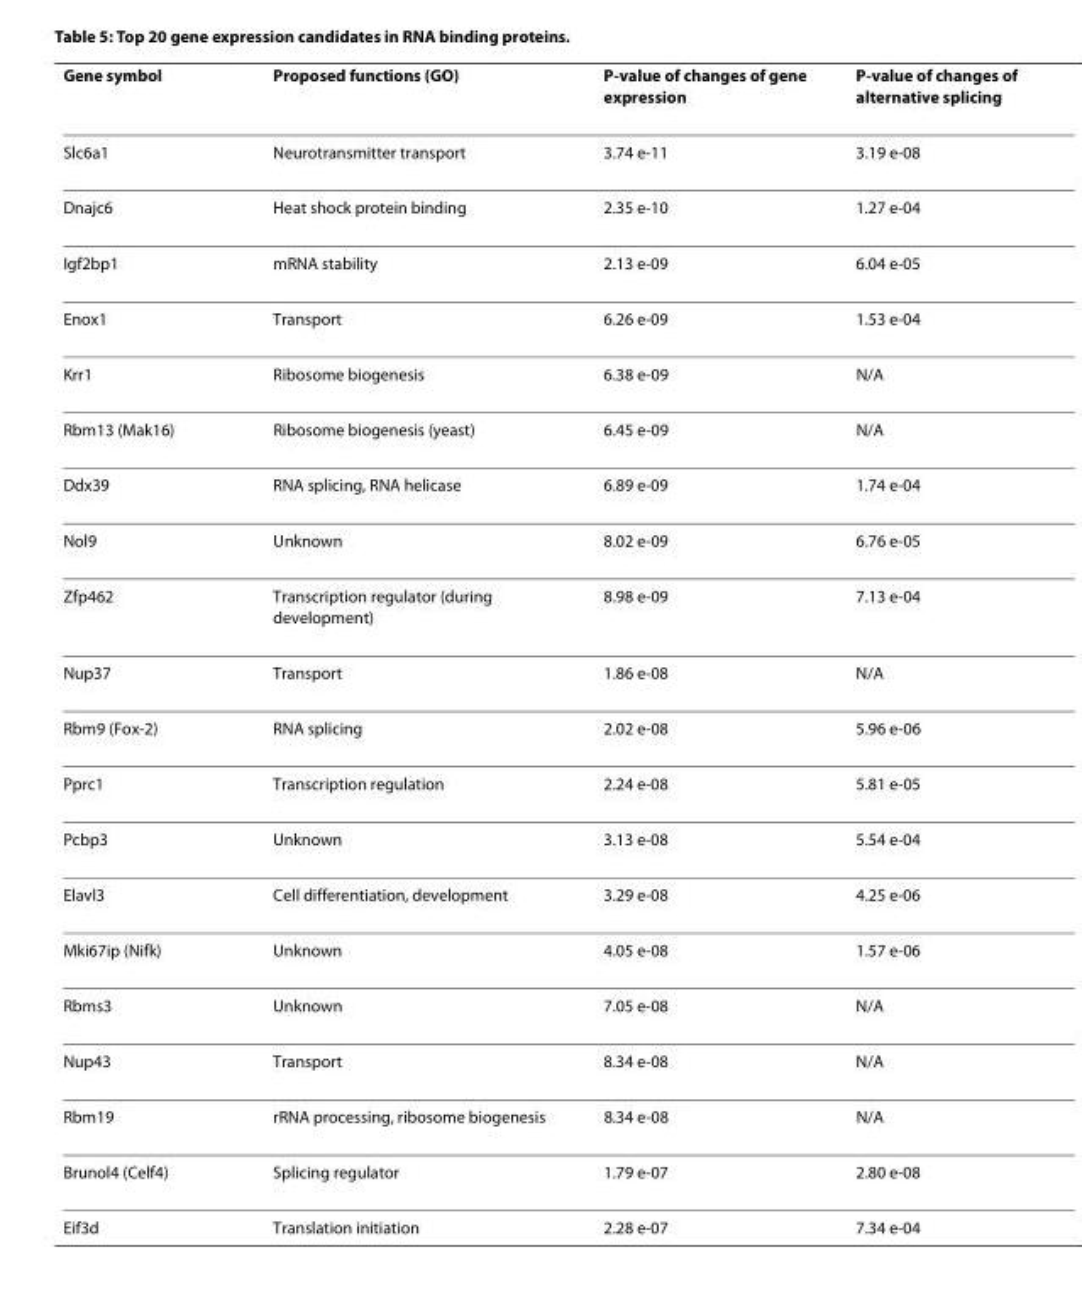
<table><thead><tr><td>Gene symbol</td><td>Proposed functions (GO)</td><td>P-value of changes of gene expression</td><td>P-value of changes of alternative splicing</td></tr></thead><tbody><tr><td>Slc6a1</td><td>Neurotransmitter transport</td><td>3.74 e-11</td><td>3.19 e-08</td></tr><tr><td>Dnajc6</td><td>Heat shock protein binding</td><td>2.35 e-10</td><td>1.27 e-04</td></tr><tr><td>Igf2bp1</td><td>mRNA stability</td><td>2.13 e-09</td><td>6.04 e-05</td></tr><tr><td>Enox1</td><td>Transport</td><td>6.26 e-09</td><td>1.53 e-04</td></tr><tr><td>Krr1</td><td>Ribosome biogenesis</td><td>6.38 e-09</td><td>N/A</td></tr><tr><td>Rbm13 (Mak16)</td><td>Ribosome biogenesis (yeast)</td><td>6.45 e-09</td><td>N/A</td></tr><tr><td>Ddx39</td><td>RNA splicing, RNA helicase</td><td>6.89 e-09</td><td>1.74 e-04</td></tr><tr><td>Nol9</td><td>Unknown</td><td>8.02 e-09</td><td>6.76 e-05</td></tr><tr><td>Zfp462</td><td>Transcription regulator (during development)</td><td>8.98 e-09</td><td>7.13 e-04</td></tr><tr><td>Nup37</td><td>Transport</td><td>1.86 e-08</td><td>N/A</td></tr><tr><td>Rbm9 (Fox-2)</td><td>RNA splicing</td><td>2.02 e-08</td><td>5.96 e-06</td></tr><tr><td>Pprc1</td><td>Transcription regulation</td><td>2.24 e-08</td><td>5.81 e-05</td></tr><tr><td>Pcbp3</td><td>Unknown</td><td>3.13 e-08</td><td>5.54 e-04</td></tr><tr><td>Elavl3</td><td>Cell differentiation, development</td><td>3.29 e-08</td><td>4.25 e-06</td></tr><tr><td>Mki67ip (Nifk)</td><td>Unknown</td><td>4.05 e-08</td><td>1.57 e-06</td></tr><tr><td>Rbms3</td><td>Unknown</td><td>7.05 e-08</td><td>N/A</td></tr><tr><td>Nup43</td><td>Transport</td><td>8.34 e-08</td><td>N/A</td></tr><tr><td>Rbm19</td><td>rRNA processing, ribosome biogenesis</td><td>8.34 e-08</td><td>N/A</td></tr><tr><td>Brunol4 (Celf4)</td><td>Splicing regulator</td><td>1.79 e-07</td><td>2.80 e-08</td></tr><tr><td>Eif3d</td><td>Translation initiation</td><td>2.28 e-07</td><td>7.34 e-04</td></tr></tbody></table>